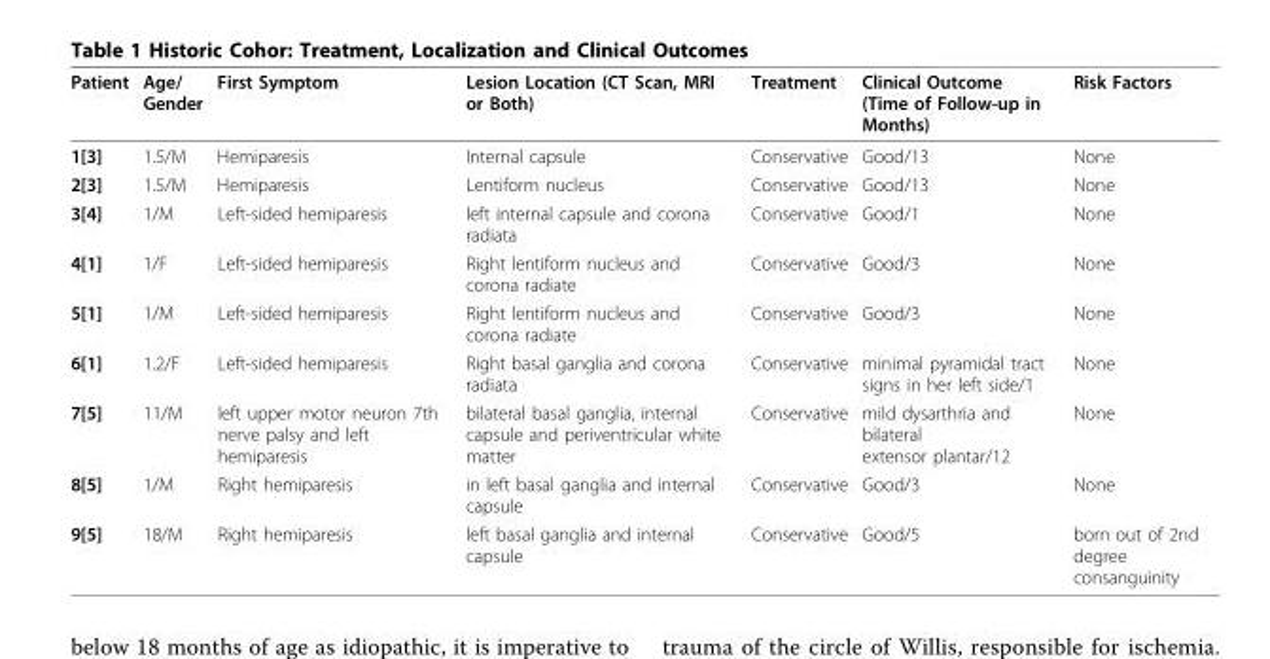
<table><thead><tr><td>Patient</td><td>Age/ Gender</td><td>First Symptom</td><td>Lesion Location (CT Scan, MRI or Both)</td><td>Treatment</td><td>Clinical Outcome (Time of Follow-up in Months)</td><td>Risk Factors</td></tr></thead><tbody><tr><td>1[3]</td><td>1.5/M</td><td>Hemiparesis</td><td>Internal capsule</td><td>Conservative</td><td>Good/13</td><td>None</td></tr><tr><td>2[3]</td><td>1.5/M</td><td>Hemiparesis</td><td>Lentiform nucleus</td><td>Conservative</td><td>Good/13</td><td>None</td></tr><tr><td>3[4]</td><td>1/M</td><td>Left-sided hemiparesis</td><td>left internal capsule and corona radiata</td><td>Conservative</td><td>Good/1</td><td>None</td></tr><tr><td>4[1]</td><td>1/F</td><td>Left-sided hemiparesis</td><td>Right lentiform nucleus and corona radiate</td><td>Conservative</td><td>Good/3</td><td>None</td></tr><tr><td>5[1]</td><td>1/M</td><td>Left-sided hemiparesis</td><td>Right lentiform nucleus and corona radiate</td><td>Conservative</td><td>Good/3</td><td>None</td></tr><tr><td>6[1]</td><td>1.2/F</td><td>Left-sided hemiparesis</td><td>Right basal ganglia and corona radiata</td><td>Conservative</td><td>minimal pyramidal tract signs in her left side/1</td><td>None</td></tr><tr><td>7[5]</td><td>11/M</td><td>left upper motor neuron 7th nerve palsy and left hemiparesis</td><td>bilateral basal ganglia, internal capsule and periventricular white matter</td><td>Conservative</td><td>mild dysarthria and bilateral extensor plantar/12</td><td>None</td></tr><tr><td>8[5]</td><td>1/M</td><td>Right hemiparesis</td><td>in left basal ganglia and internal capsule</td><td>Conservative</td><td>Good/3</td><td>None</td></tr><tr><td>9[5]</td><td>18/M</td><td>Right hemiparesis</td><td>left basal ganglia and internal capsule</td><td>Conservative</td><td>Good/5</td><td>born out of 2nd degree consanguinity</td></tr></tbody></table>